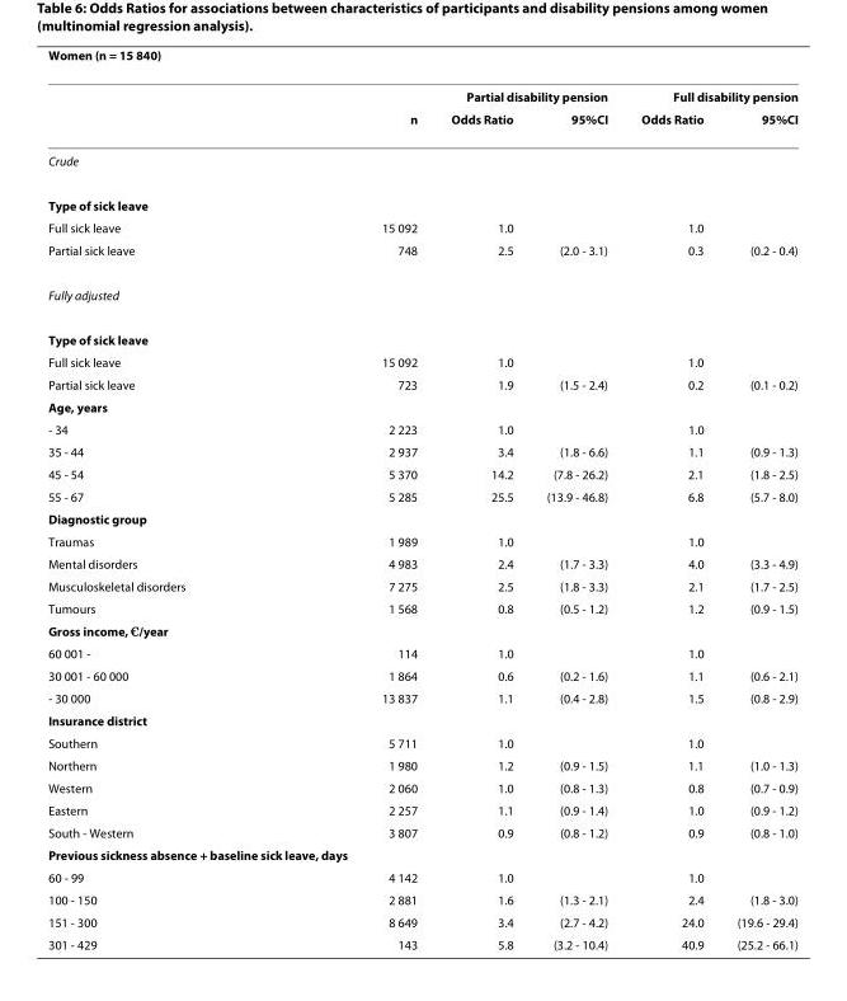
<table><thead><tr><td colspan="6">Women (n = 15 840)</td></tr><tr><td rowspan="2"></td><td rowspan="2">n</td><td colspan="2">Partial disability pension</td><td colspan="2">Full disability pension</td></tr><tr><td>Odds Ratio</td><td>95%CI</td><td>Odds Ratio</td><td>95%CI</td></tr></thead><tbody><tr><td colspan="6">Crude</td></tr><tr><td colspan="6">Type of sick leave</td></tr><tr><td>Full sick leave</td><td>15 092</td><td>1.0</td><td></td><td>1.0</td><td></td></tr><tr><td>Partial sick leave</td><td>748</td><td>2.5</td><td>(2.0 - 3.1)</td><td>0.3</td><td>(0.2 - 0.4)</td></tr><tr><td colspan="6">Fully adjusted</td></tr><tr><td colspan="6">Type of sick leave</td></tr><tr><td>Full sick leave</td><td>15 092</td><td>1.0</td><td></td><td>1.0</td><td></td></tr><tr><td>Partial sick leave</td><td>723</td><td>1.9</td><td>(1.5 - 2.4)</td><td>0.2</td><td>(0.1 - 0.2)</td></tr><tr><td colspan="6">Age, years</td></tr><tr><td>- 34</td><td>2 223</td><td>1.0</td><td></td><td>1.0</td><td></td></tr><tr><td>35 - 44</td><td>2 937</td><td>3.4</td><td>(1.8 - 6.6)</td><td>1.1</td><td>(0.9 - 1.3)</td></tr><tr><td>45 - 54</td><td>5 370</td><td>14.2</td><td>(7.8 - 26.2)</td><td>2.1</td><td>(1.8 - 2.5)</td></tr><tr><td>55 - 67</td><td>5 285</td><td>25.5</td><td>(13.9 - 46.8)</td><td>6.8</td><td>(5.7 - 8.0)</td></tr><tr><td colspan="6">Diagnostic group</td></tr><tr><td>Traumas</td><td>1 989</td><td>1.0</td><td></td><td>1.0</td><td></td></tr><tr><td>Mental disorders</td><td>4 983</td><td>2.4</td><td>(1.7 - 3.3)</td><td>4.0</td><td>(3.3 - 4.9)</td></tr><tr><td>Musculoskeletal disorders</td><td>7 275</td><td>2.5</td><td>(1.8 - 3.3)</td><td>2.1</td><td>(1.7 - 2.5)</td></tr><tr><td>Tumours</td><td>1 568</td><td>0.8</td><td>(0.5 - 1.2)</td><td>1.2</td><td>(0.9 - 1.5)</td></tr><tr><td colspan="6">Gross income, €/year</td></tr><tr><td>60 001 -</td><td>114</td><td>1.0</td><td></td><td>1.0</td><td></td></tr><tr><td>30 001 - 60 000</td><td>1 864</td><td>0.6</td><td>(0.2 - 1.6)</td><td>1.1</td><td>(0.6 - 2.1)</td></tr><tr><td>- 30 000</td><td>13 837</td><td>1.1</td><td>(0.4 - 2.8)</td><td>1.5</td><td>(0.8 - 2.9)</td></tr><tr><td colspan="6">Insurance district</td></tr><tr><td>Southern</td><td>5 711</td><td>1.0</td><td></td><td>1.0</td><td></td></tr><tr><td>Northern</td><td>1 980</td><td>1.2</td><td>(0.9 - 1.5)</td><td>1.1</td><td>(1.0 - 1.3)</td></tr><tr><td>Western</td><td>2 060</td><td>1.0</td><td>(0.8 - 1.3)</td><td>0.8</td><td>(0.7 - 0.9)</td></tr><tr><td>Eastern</td><td>2 257</td><td>1.1</td><td>(0.9 - 1.4)</td><td>1.0</td><td>(0.9 - 1.2)</td></tr><tr><td>South - Western</td><td>3 807</td><td>0.9</td><td>(0.8 - 1.2)</td><td>0.9</td><td>(0.8 - 1.0)</td></tr><tr><td colspan="6">Previous sickness absence + baseline sick leave, days</td></tr><tr><td>60 - 99</td><td>4 142</td><td>1.0</td><td></td><td>1.0</td><td></td></tr><tr><td>100 - 150</td><td>2 881</td><td>1.6</td><td>(1.3 - 2.1)</td><td>2.4</td><td>(1.8 - 3.0)</td></tr><tr><td>151 - 300</td><td>8 649</td><td>3.4</td><td>(2.7 - 4.2)</td><td>24.0</td><td>(19.6 - 29.4)</td></tr><tr><td>301 - 429</td><td>143</td><td>5.8</td><td>(3.2 - 10.4)</td><td>40.9</td><td>(25.2 - 66.1)</td></tr></tbody></table>